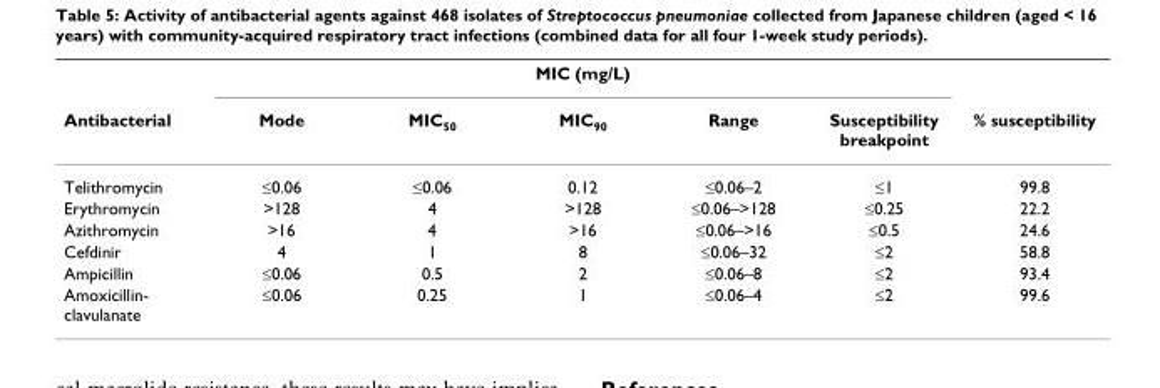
<table><thead><tr><td rowspan="2">Antibacterial</td><td colspan="5">MIC (mg/L)</td><td rowspan="2">% susceptibility</td></tr><tr><td>Mode</td><td>MIC<sub>50</sub></td><td>MIC<sub>90</sub></td><td>Range</td><td>Susceptibility breakpoint</td></tr></thead><tbody><tr><td>Telithromycin</td><td>≤0.06</td><td>≤0.06</td><td>0.12</td><td>≤0.06–2</td><td>≤1</td><td>99.8</td></tr><tr><td>Erythromycin</td><td>&gt;128</td><td>4</td><td>&gt;128</td><td>≤0.06–&gt;128</td><td>≤0.25</td><td>22.2</td></tr><tr><td>Azithromycin</td><td>&gt;16</td><td>4</td><td>&gt;16</td><td>≤0.06–&gt;16</td><td>≤0.5</td><td>24.6</td></tr><tr><td>Cefdinir</td><td>4</td><td>1</td><td>8</td><td>≤0.06–32</td><td>≤2</td><td>58.8</td></tr><tr><td>Ampicillin</td><td>≤0.06</td><td>0.5</td><td>2</td><td>≤0.06–8</td><td>≤2</td><td>93.4</td></tr><tr><td>Amoxicillin- clavulanate</td><td>≤0.06</td><td>0.25</td><td>1</td><td>≤0.06–4</td><td>≤2</td><td>99.6</td></tr></tbody></table>